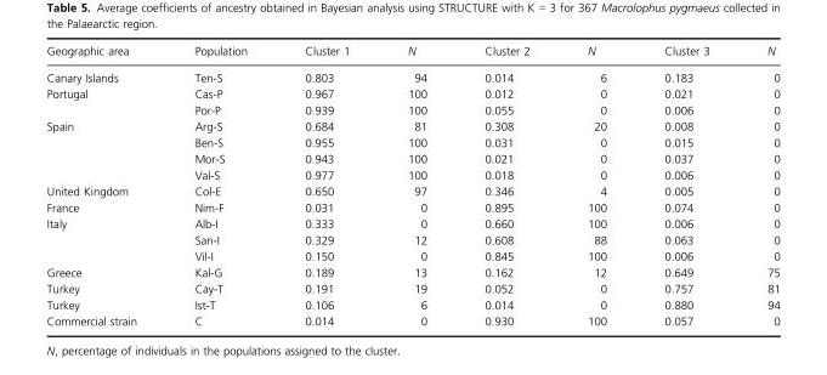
<table><thead><tr><td>Geographic area</td><td>Population</td><td>Cluster 1</td><td>N</td><td>Cluster 2</td><td>N</td><td>Cluster 3</td><td>N</td></tr></thead><tbody><tr><td>Canary Islands</td><td>Ten-S</td><td>0.803</td><td>94</td><td>0.014</td><td>6</td><td>0.183</td><td>0</td></tr><tr><td rowspan="2">Portugal</td><td>Cas-P</td><td>0.967</td><td>100</td><td>0.012</td><td>0</td><td>0.021</td><td>0</td></tr><tr><td>Por-P</td><td>0.939</td><td>100</td><td>0.055</td><td>0</td><td>0.006</td><td>0</td></tr><tr><td rowspan="4">Spain</td><td>Arg-S</td><td>0.684</td><td>81</td><td>0.308</td><td>20</td><td>0.008</td><td>0</td></tr><tr><td>Ben-S</td><td>0.955</td><td>100</td><td>0.031</td><td>0</td><td>0.015</td><td>0</td></tr><tr><td>Mor-S</td><td>0.943</td><td>100</td><td>0.021</td><td>0</td><td>0.037</td><td>0</td></tr><tr><td>Val-S</td><td>0.977</td><td>100</td><td>0.018</td><td>0</td><td>0.006</td><td>0</td></tr><tr><td>United Kingdom</td><td>Col-E</td><td>0.650</td><td>97</td><td>0.346</td><td>4</td><td>0.005</td><td>0</td></tr><tr><td>France</td><td>Nim-F</td><td>0.031</td><td>0</td><td>0.895</td><td>100</td><td>0.074</td><td>0</td></tr><tr><td rowspan="3">Italy</td><td>Alb-I</td><td>0.333</td><td>0</td><td>0.660</td><td>100</td><td>0.006</td><td>0</td></tr><tr><td>San-I</td><td>0.329</td><td>12</td><td>0.608</td><td>88</td><td>0.063</td><td>0</td></tr><tr><td>Vil-I</td><td>0.150</td><td>0</td><td>0.845</td><td>100</td><td>0.006</td><td>0</td></tr><tr><td>Greece</td><td>Kal-G</td><td>0.189</td><td>13</td><td>0.162</td><td>12</td><td>0.649</td><td>75</td></tr><tr><td>Turkey</td><td>Cay-T</td><td>0.191</td><td>19</td><td>0.052</td><td>0</td><td>0.757</td><td>81</td></tr><tr><td>Turkey</td><td>Ist-T</td><td>0.106</td><td>6</td><td>0.014</td><td>0</td><td>0.880</td><td>94</td></tr><tr><td>Commercial strain</td><td>C</td><td>0.014</td><td>0</td><td>0.930</td><td>100</td><td>0.057</td><td>0</td></tr></tbody></table>